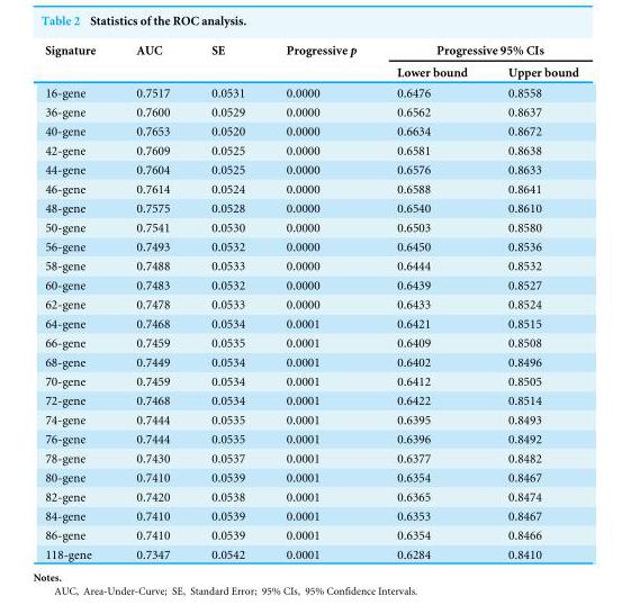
<table><thead><tr><td rowspan="2">Signature</td><td rowspan="2">AUC</td><td rowspan="2">SE</td><td rowspan="2">Progressive p</td><td colspan="2">Progressive 95% CIs</td></tr><tr><td>Lower bound</td><td>Upper bound</td></tr></thead><tbody><tr><td>;16-gene</td><td>0.7517</td><td>0.0531</td><td>0.0000</td><td>0.6476</td><td>0.8558</td></tr><tr><td>;36-gene</td><td>0.7600</td><td>0.0529</td><td>0.0000</td><td>0.6562</td><td>0.8637</td></tr><tr><td>;40-gene</td><td>0.7653</td><td>0.0520</td><td>0.0000</td><td>0.6634</td><td>0.8672</td></tr><tr><td>;42-gene</td><td>0.7609</td><td>0.0525</td><td>0.0000</td><td>0.6581</td><td>0.8638</td></tr><tr><td>;44-gene</td><td>0.7604</td><td>0.0525</td><td>0.0000</td><td>0.6576</td><td>0.8633</td></tr><tr><td>;46-gene</td><td>0.7614</td><td>0.0524</td><td>0.0000</td><td>0.6588</td><td>0.8641</td></tr><tr><td>;48-gene</td><td>0.7575</td><td>0.0528</td><td>0.0000</td><td>0.6540</td><td>0.8610</td></tr><tr><td>;50-gene</td><td>0.7541</td><td>0.0530</td><td>0.0000</td><td>0.6503</td><td>0.8580</td></tr><tr><td>;56-gene</td><td>0.7493</td><td>0.0532</td><td>0.0000</td><td>0.6450</td><td>0.8536</td></tr><tr><td>;58-gene</td><td>0.7488</td><td>0.0533</td><td>0.0000</td><td>0.6444</td><td>0.8532</td></tr><tr><td>;60-gene</td><td>0.7483</td><td>0.0532</td><td>0.0000</td><td>0.6439</td><td>0.8527</td></tr><tr><td>;62-gene</td><td>0.7478</td><td>0.0533</td><td>0.0000</td><td>0.6433</td><td>0.8524</td></tr><tr><td>;64-gene</td><td>0.7468</td><td>0.0534</td><td>0.0001</td><td>0.6421</td><td>0.8515</td></tr><tr><td>;66-gene</td><td>0.7459</td><td>0.0535</td><td>0.0001</td><td>0.6409</td><td>0.8508</td></tr><tr><td>;68-gene</td><td>0.7449</td><td>0.0534</td><td>0.0001</td><td>0.6402</td><td>0.8496</td></tr><tr><td>;70-gene</td><td>0.7459</td><td>0.0534</td><td>0.0001</td><td>0.6412</td><td>0.8505</td></tr><tr><td>;72-gene</td><td>0.7468</td><td>0.0534</td><td>0.0001</td><td>0.6422</td><td>0.8514</td></tr><tr><td>;74-gene</td><td>0.7444</td><td>0.0535</td><td>0.0001</td><td>0.6395</td><td>0.8493</td></tr><tr><td>;76-gene</td><td>0.7444</td><td>0.0535</td><td>0.0001</td><td>0.6396</td><td>0.8492</td></tr><tr><td>;78-gene</td><td>0.7430</td><td>0.0537</td><td>0.0001</td><td>0.6377</td><td>0.8482</td></tr><tr><td>;80-gene</td><td>0.7410</td><td>0.0539</td><td>0.0001</td><td>0.6354</td><td>0.8467</td></tr><tr><td>;82-gene</td><td>0.7420</td><td>0.0538</td><td>0.0001</td><td>0.6365</td><td>0.8474</td></tr><tr><td>;84-gene</td><td>0.7410</td><td>0.0539</td><td>0.0001</td><td>0.6353</td><td>0.8467</td></tr><tr><td>;86-gene</td><td>0.7410</td><td>0.0539</td><td>0.0001</td><td>0.6354</td><td>0.8466</td></tr><tr><td>;118-gene</td><td>0.7347</td><td>0.0542</td><td>0.0001</td><td>0.6284</td><td>0.8410</td></tr></tbody></table>